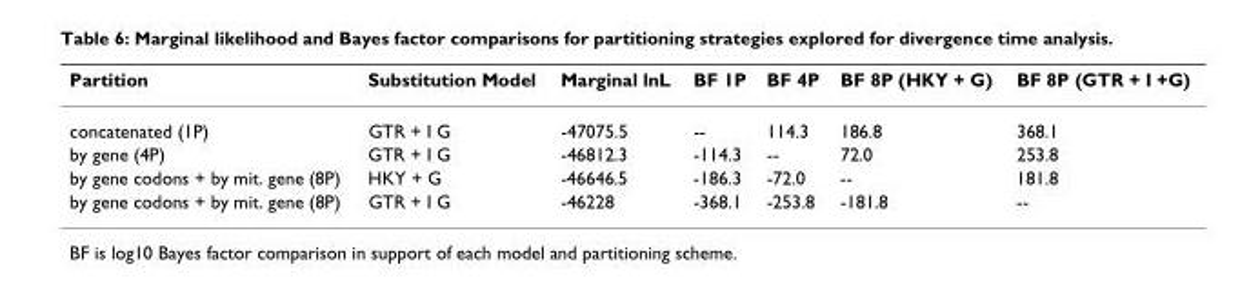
<table><thead><tr><td>Partition</td><td>Substitution Model</td><td>Marginal lnL</td><td>BF 1P</td><td>BF 4P</td><td>BF 8P (HKY + G)</td><td>BF 8P (GTR + I +G)</td></tr></thead><tbody><tr><td>concatenated (1P)</td><td>GTR + I G</td><td>-47075.5</td><td>--</td><td>114.3</td><td>186.8</td><td>368.1</td></tr><tr><td>by gene (4P)</td><td>GTR + I G</td><td>-46812.3</td><td>-114.3</td><td>--</td><td>72.0</td><td>253.8</td></tr><tr><td>by gene codons + by mit. gene (8P)</td><td>HKY + G</td><td>-46646.5</td><td>-186.3</td><td>-72.0</td><td>--</td><td>181.8</td></tr><tr><td>by gene codons + by mit. gene (8P)</td><td>GTR + I G</td><td>-46228</td><td>-368.1</td><td>-253.8</td><td>-181.8</td><td>--</td></tr></tbody></table>